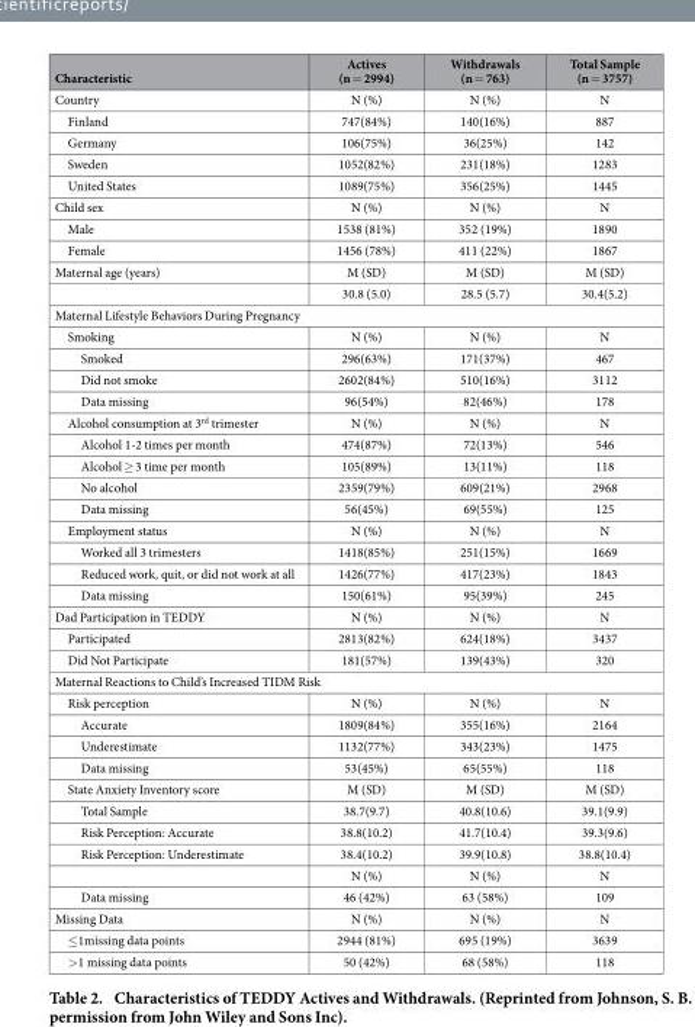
<table><thead><tr><td>Characteristic</td><td>Actives (n = 2994)</td><td>Withdrawals (n = 763)</td><td>Total Sample (n = 3757)</td></tr></thead><tbody><tr><td>Country</td><td>N (%)</td><td>N (%)</td><td>N</td></tr><tr><td>Finland</td><td>747(84%)</td><td>140(16%)</td><td>887</td></tr><tr><td>Germany</td><td>106(75%)</td><td>36(25%)</td><td>142</td></tr><tr><td>Sweden</td><td>1052(82%)</td><td>231(18%)</td><td>1283</td></tr><tr><td>United States</td><td>1089(75%)</td><td>356(25%)</td><td>1445</td></tr><tr><td>Child sex</td><td>N (%)</td><td>N (%)</td><td>N</td></tr><tr><td>Male</td><td>1538 (81%)</td><td>352 (19%)</td><td>1890</td></tr><tr><td>Female</td><td>1456 (78%)</td><td>411 (22%)</td><td>1867</td></tr><tr><td rowspan="2">Maternal age (years)</td><td>M (SD)</td><td>M (SD)</td><td>M (SD)</td></tr><tr><td>30.8 (5.0)</td><td>28.5 (5.7)</td><td>30.4(5.2)</td></tr><tr><td colspan="4">Maternal Lifestyle Behaviors During Pregnancy</td></tr><tr><td>Smoking</td><td>N (%)</td><td>N (%)</td><td>N</td></tr><tr><td>Smoked</td><td>296(63%)</td><td>171(37%)</td><td>467</td></tr><tr><td>Did not smoke</td><td>2602(84%)</td><td>510(16%)</td><td>3112</td></tr><tr><td>Data missing</td><td>96(54%)</td><td>82(46%)</td><td>178</td></tr><tr><td>Alcohol consumption at 3<sup>rd</sup> trimester</td><td>N (%)</td><td>N (%)</td><td>N</td></tr><tr><td>Alcohol 1-2 times per month</td><td>474(87%)</td><td>72(13%)</td><td>546</td></tr><tr><td>Alcohol ≥ 3 time per month</td><td>105(89%)</td><td>13(11%)</td><td>118</td></tr><tr><td>No alcohol</td><td>2359(79%)</td><td>609(21%)</td><td>2968</td></tr><tr><td>Data missing</td><td>56(45%)</td><td>69(55%)</td><td>125</td></tr><tr><td>Employment status</td><td>N (%)</td><td>N (%)</td><td>N</td></tr><tr><td>Worked all 3 trimesters</td><td>1418(85%)</td><td>251(15%)</td><td>1669</td></tr><tr><td>Reduced work, quit, or did not work at all</td><td>1426(77%)</td><td>417(23%)</td><td>1843</td></tr><tr><td>Data missing</td><td>150(61%)</td><td>95(39%)</td><td>245</td></tr><tr><td>Dad Participation in TEDDY</td><td>N (%)</td><td>N (%)</td><td>N</td></tr><tr><td>Participated</td><td>2813(82%)</td><td>624(18%)</td><td>3437</td></tr><tr><td>Did Not Participate</td><td>181(57%)</td><td>139(43%)</td><td>320</td></tr><tr><td colspan="4">Maternal Reactions to Child’s Increased TIDM Risk</td></tr><tr><td>Risk perception</td><td>N (%)</td><td>N (%)</td><td>N</td></tr><tr><td>Accurate</td><td>1809(84%)</td><td>355(16%)</td><td>2164</td></tr><tr><td>Underestimate</td><td>1132(77%)</td><td>343(23%)</td><td>1475</td></tr><tr><td>Data missing</td><td>53(45%)</td><td>65(55%)</td><td>118</td></tr><tr><td>State Anxiety Inventory score</td><td>M (SD)</td><td>M (SD)</td><td>M (SD)</td></tr><tr><td>Total Sample</td><td>38.7(9.7)</td><td>40.8(10.6)</td><td>39.1(9.9)</td></tr><tr><td>Risk Perception: Accurate</td><td>38.8(10.2)</td><td>41.7(10.4)</td><td>39.3(9.6)</td></tr><tr><td rowspan="2">Risk Perception: Underestimate</td><td>38.4(10.2)</td><td>39.9(10.8)</td><td>38.8(10.4)</td></tr><tr><td>N (%)</td><td>N (%)</td><td>N</td></tr><tr><td>Data missing</td><td>46 (42%)</td><td>63 (58%)</td><td>109</td></tr><tr><td>Missing Data</td><td>N (%)</td><td>N (%)</td><td>N</td></tr><tr><td>≤ 1missing data points</td><td>2944 (81%)</td><td>695 (19%)</td><td>3639</td></tr><tr><td>&gt; 1 missing data points</td><td>50 (42%)</td><td>68 (58%)</td><td>118</td></tr></tbody></table>